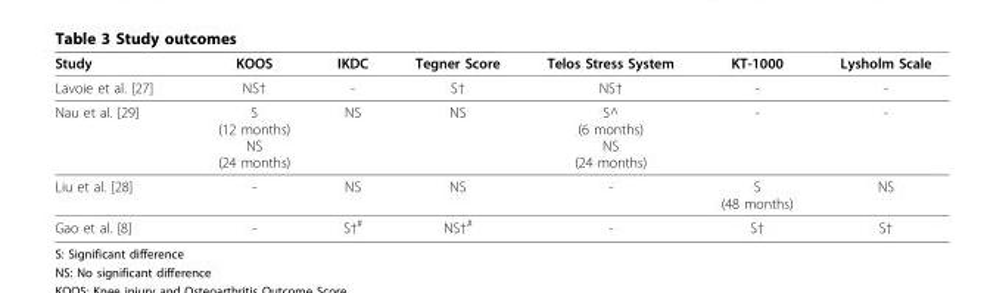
<table><thead><tr><td>Study</td><td>KOOS</td><td>IKDC</td><td>Tegner Score</td><td>Telos Stress System</td><td>KT-1000</td><td>Lysholm Scale</td></tr></thead><tbody><tr><td>Lavoie et al. [27]</td><td>NS†</td><td>-</td><td>S†</td><td>NS†</td><td>-</td><td>-</td></tr><tr><td>Nau et al. [29]</td><td>S (12 months) NS (24 months)</td><td>NS</td><td>NS</td><td>S^ (6 months) NS (24 months)</td><td>-</td><td>-</td></tr><tr><td>Liu et al. [28]</td><td>-</td><td>NS</td><td>NS</td><td>-</td><td>S (48 months)</td><td>NS</td></tr><tr><td>Gao et al. [8]</td><td>-</td><td>S†<sup>#</sup></td><td>NS†<sup>#</sup></td><td>-</td><td>S†</td><td>S†</td></tr></tbody></table>